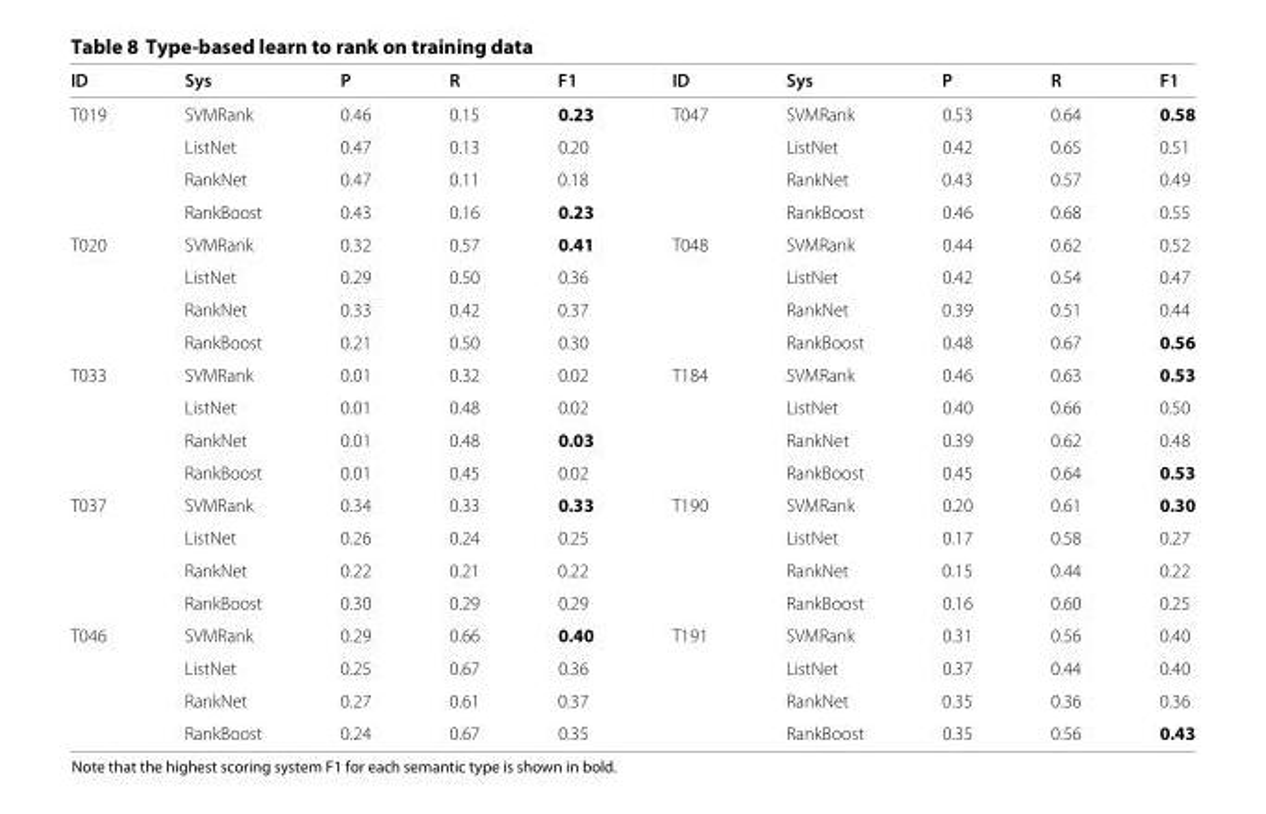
<table><thead><tr><td>ID</td><td>Sys</td><td>P</td><td>R</td><td>F1</td><td>ID</td><td>Sys</td><td>P</td><td>R</td><td>F1</td></tr></thead><tbody><tr><td rowspan="4">T019</td><td>SVMRank</td><td>0.46</td><td>0.15</td><td>0.23</td><td>T047</td><td>SVMRank</td><td>0.53</td><td>0.64</td><td>0.58</td></tr><tr><td>ListNet</td><td>0.47</td><td>0.13</td><td>0.20</td><td></td><td>ListNet</td><td>0.42</td><td>0.65</td><td>0.51</td></tr><tr><td>RankNet</td><td>0.47</td><td>0.11</td><td>0.18</td><td></td><td>RankNet</td><td>0.43</td><td>0.57</td><td>0.49</td></tr><tr><td>RankBoost</td><td>0.43</td><td>0.16</td><td>0.23</td><td></td><td>RankBoost</td><td>0.46</td><td>0.68</td><td>0.55</td></tr><tr><td rowspan="4">T020</td><td>SVMRank</td><td>0.32</td><td>0.57</td><td>0.41</td><td>T048</td><td>SVMRank</td><td>0.44</td><td>0.62</td><td>0.52</td></tr><tr><td>ListNet</td><td>0.29</td><td>0.50</td><td>0.36</td><td></td><td>ListNet</td><td>0.42</td><td>0.54</td><td>0.47</td></tr><tr><td>RankNet</td><td>0.33</td><td>0.42</td><td>0.37</td><td></td><td>RankNet</td><td>0.39</td><td>0.51</td><td>0.44</td></tr><tr><td>RankBoost</td><td>0.21</td><td>0.50</td><td>0.30</td><td></td><td>RankBoost</td><td>0.48</td><td>0.67</td><td>0.56</td></tr><tr><td rowspan="4">T033</td><td>SVMRank</td><td>0.01</td><td>0.32</td><td>0.02</td><td>T184</td><td>SVMRank</td><td>0.46</td><td>0.63</td><td>0.53</td></tr><tr><td>ListNet</td><td>0.01</td><td>0.48</td><td>0.02</td><td></td><td>ListNet</td><td>0.40</td><td>0.66</td><td>0.50</td></tr><tr><td>RankNet</td><td>0.01</td><td>0.48</td><td>0.03</td><td></td><td>RankNet</td><td>0.39</td><td>0.62</td><td>0.48</td></tr><tr><td>RankBoost</td><td>0.01</td><td>0.45</td><td>0.02</td><td></td><td>RankBoost</td><td>0.45</td><td>0.64</td><td>0.53</td></tr><tr><td rowspan="4">T037</td><td>SVMRank</td><td>0.34</td><td>0.33</td><td>0.33</td><td>T190</td><td>SVMRank</td><td>0.20</td><td>0.61</td><td>0.30</td></tr><tr><td>ListNet</td><td>0.26</td><td>0.24</td><td>0.25</td><td></td><td>ListNet</td><td>0.17</td><td>0.58</td><td>0.27</td></tr><tr><td>RankNet</td><td>0.22</td><td>0.21</td><td>0.22</td><td></td><td>RankNet</td><td>0.15</td><td>0.44</td><td>0.22</td></tr><tr><td>RankBoost</td><td>0.30</td><td>0.29</td><td>0.29</td><td></td><td>RankBoost</td><td>0.16</td><td>0.60</td><td>0.25</td></tr><tr><td rowspan="4">T046</td><td>SVMRank</td><td>0.29</td><td>0.66</td><td>0.40</td><td>T191</td><td>SVMRank</td><td>0.31</td><td>0.56</td><td>0.40</td></tr><tr><td>ListNet</td><td>0.25</td><td>0.67</td><td>0.36</td><td></td><td>ListNet</td><td>0.37</td><td>0.44</td><td>0.40</td></tr><tr><td>RankNet</td><td>0.27</td><td>0.61</td><td>0.37</td><td></td><td>RankNet</td><td>0.35</td><td>0.36</td><td>0.36</td></tr><tr><td>RankBoost</td><td>0.24</td><td>0.67</td><td>0.35</td><td></td><td>RankBoost</td><td>0.35</td><td>0.56</td><td>0.43</td></tr></tbody></table>